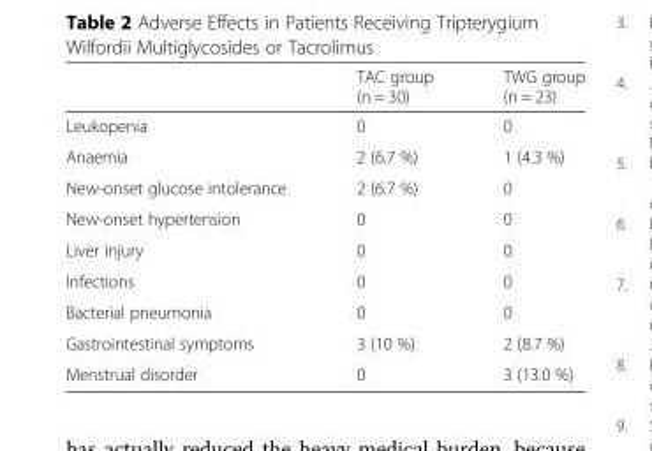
<table><thead><tr><td></td><td>TAC group (n = 30)</td><td>TWG group (n = 23)</td></tr></thead><tbody><tr><td>Leukopenia</td><td>0</td><td>0</td></tr><tr><td>Anaemia</td><td>2 (6.7 %)</td><td>1 (4.3 %)</td></tr><tr><td>New-onset glucose intolerance</td><td>2 (6.7 %)</td><td>0</td></tr><tr><td>New-onset hypertension</td><td>0</td><td>0</td></tr><tr><td>Liver injury</td><td>0</td><td>0</td></tr><tr><td>Infections</td><td>0</td><td>0</td></tr><tr><td>Bacterial pneumonia</td><td>0</td><td>0</td></tr><tr><td>Gastrointestinal symptoms</td><td>3 (10 %)</td><td>2 (8.7 %)</td></tr><tr><td>Menstrual disorder</td><td>0</td><td>3 (13.0 %)</td></tr></tbody></table>